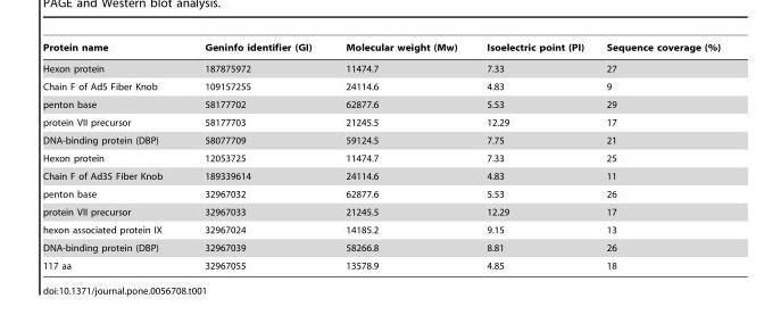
<table><thead><tr><td>Protein name</td><td>Geninfo identifier (GI)</td><td>Molecular weight (Mw)</td><td>Isoelectric point (PI)</td><td>Sequence coverage (%)</td></tr></thead><tbody><tr><td>Hexon protein</td><td>187875972</td><td>11474.7</td><td>7.33</td><td>27</td></tr><tr><td>Chain F of Ad5 Fiber Knob</td><td>109157255</td><td>24114.6</td><td>4.83</td><td>9</td></tr><tr><td>penton base</td><td>58177702</td><td>62877.6</td><td>5.53</td><td>29</td></tr><tr><td>protein VII precursor</td><td>58177703</td><td>21245.5</td><td>12.29</td><td>17</td></tr><tr><td>DNA-binding protein (DBP)</td><td>58077709</td><td>59124.5</td><td>7.75</td><td>21</td></tr><tr><td>Hexon protein</td><td>12053725</td><td>11474.7</td><td>7.33</td><td>25</td></tr><tr><td>Chain F of Ad35 Fiber Knob</td><td>189339614</td><td>24114.6</td><td>4.83</td><td>11</td></tr><tr><td>penton base</td><td>32967032</td><td>62877.6</td><td>5.53</td><td>26</td></tr><tr><td>protein VII precursor</td><td>32967033</td><td>21245.5</td><td>12.29</td><td>17</td></tr><tr><td>hexon associated protein IX</td><td>32967024</td><td>14185.2</td><td>9.15</td><td>13</td></tr><tr><td>DNA-binding protein (DBP)</td><td>32967039</td><td>58266.8</td><td>8.81</td><td>26</td></tr><tr><td>117 aa</td><td>32967055</td><td>13578.9</td><td>4.85</td><td>18</td></tr></tbody></table>